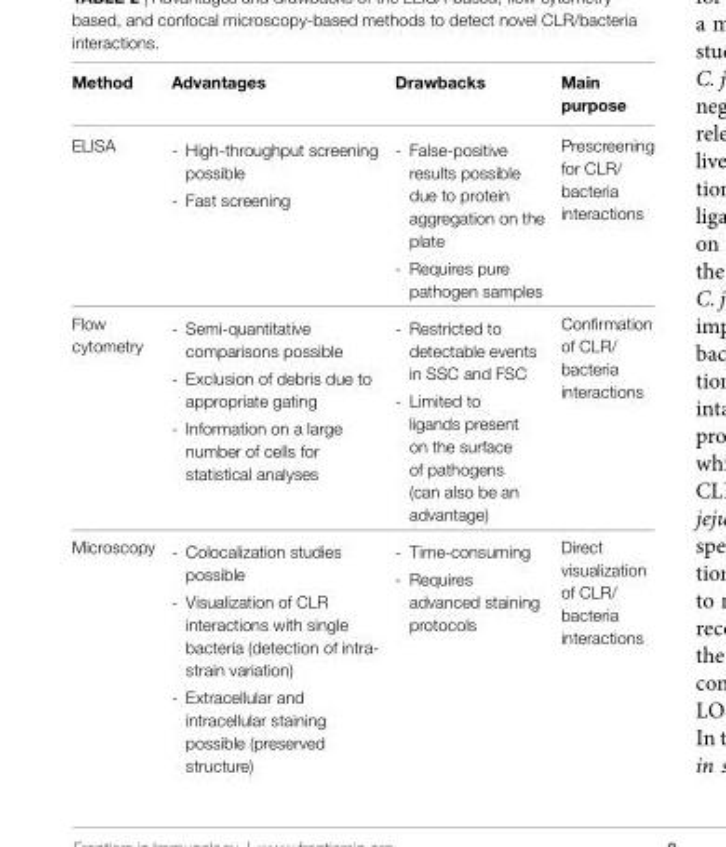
<table><thead><tr><td>Method</td><td>Advantages</td><td>drawbacks</td><td>Main purpose</td></tr></thead><tbody><tr><td>ELISA</td><td>- High-throughput screening possible - Fast screening</td><td>- False-positive results possible due to protein aggregation on the plate - Requires pure pathogen samples</td><td>Prescreening for CLR/ bacteria interactions</td></tr><tr><td>Flow cytometry</td><td>- Semi-quantitative comparisons possible - Exclusion of debris due to appropriate gating - Information on a large number of cells for statistical analyses</td><td>- Restricted to detectable events in SSC and FSC - Limited to ligands present on the surface of pathogens (can also be an advantage)</td><td>Confirmation of CLR/ bacteria interactions</td></tr><tr><td>Microscopy</td><td>- Colocalization studies possible - Visualization of CLR interactions with single bacteria (detection of intra- strain variation) - Extracellular and intracellular staining possible (preserved structure)</td><td>- Time-consuming - Requires advanced staining protocols</td><td>Direct visualization of CLR/ bacteria interactions</td></tr></tbody></table>